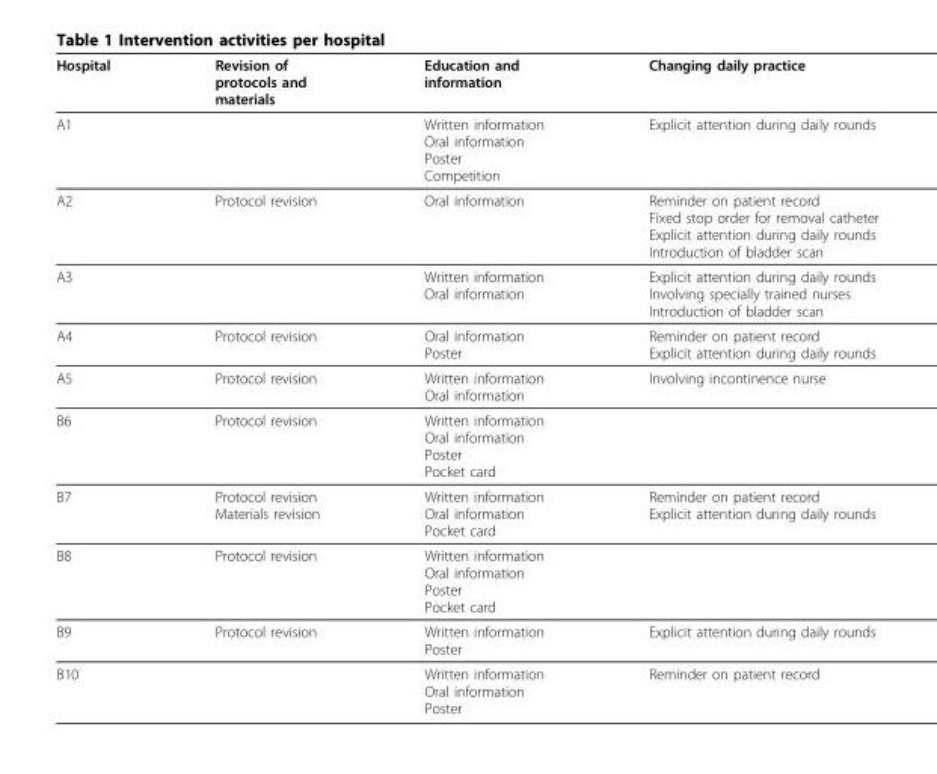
<table><thead><tr><td>Hospital</td><td>Revision of protocols and materials</td><td>Education and information</td><td>Changing daily practice</td></tr></thead><tbody><tr><td>A1</td><td></td><td>Written information Oral information Poster Competition</td><td>Explicit attention during daily rounds</td></tr><tr><td>A2</td><td>Protocol revision</td><td>Oral information</td><td>Reminder on patient record Fixed stop order for removal catheter Explicit attention during daily rounds Introduction of bladder scan</td></tr><tr><td>A3</td><td></td><td>Written information Oral information</td><td>Explicit attention during daily rounds Involving specially trained nurses Introduction of bladder scan</td></tr><tr><td>A4</td><td>Protocol revision</td><td>Oral information Poster</td><td>Reminder on patient record Explicit attention during daily rounds</td></tr><tr><td>A5</td><td>Protocol revision</td><td>Written information Oral information</td><td>Involving incontinence nurse</td></tr><tr><td>B6</td><td>Protocol revision</td><td>Written information Oral information Poster Pocket card</td><td></td></tr><tr><td>B7</td><td>Protocol revision Materials revision</td><td>Written information Oral information Pocket card</td><td>Reminder on patient record Explicit attention during daily rounds</td></tr><tr><td>B8</td><td>Protocol revision</td><td>Written information Oral information Poster Pocket card</td><td></td></tr><tr><td>B9</td><td>Protocol revision</td><td>Written information Poster</td><td>Explicit attention during daily rounds</td></tr><tr><td>B10</td><td></td><td>Written information Oral information Poster</td><td>Reminder on patient record</td></tr></tbody></table>